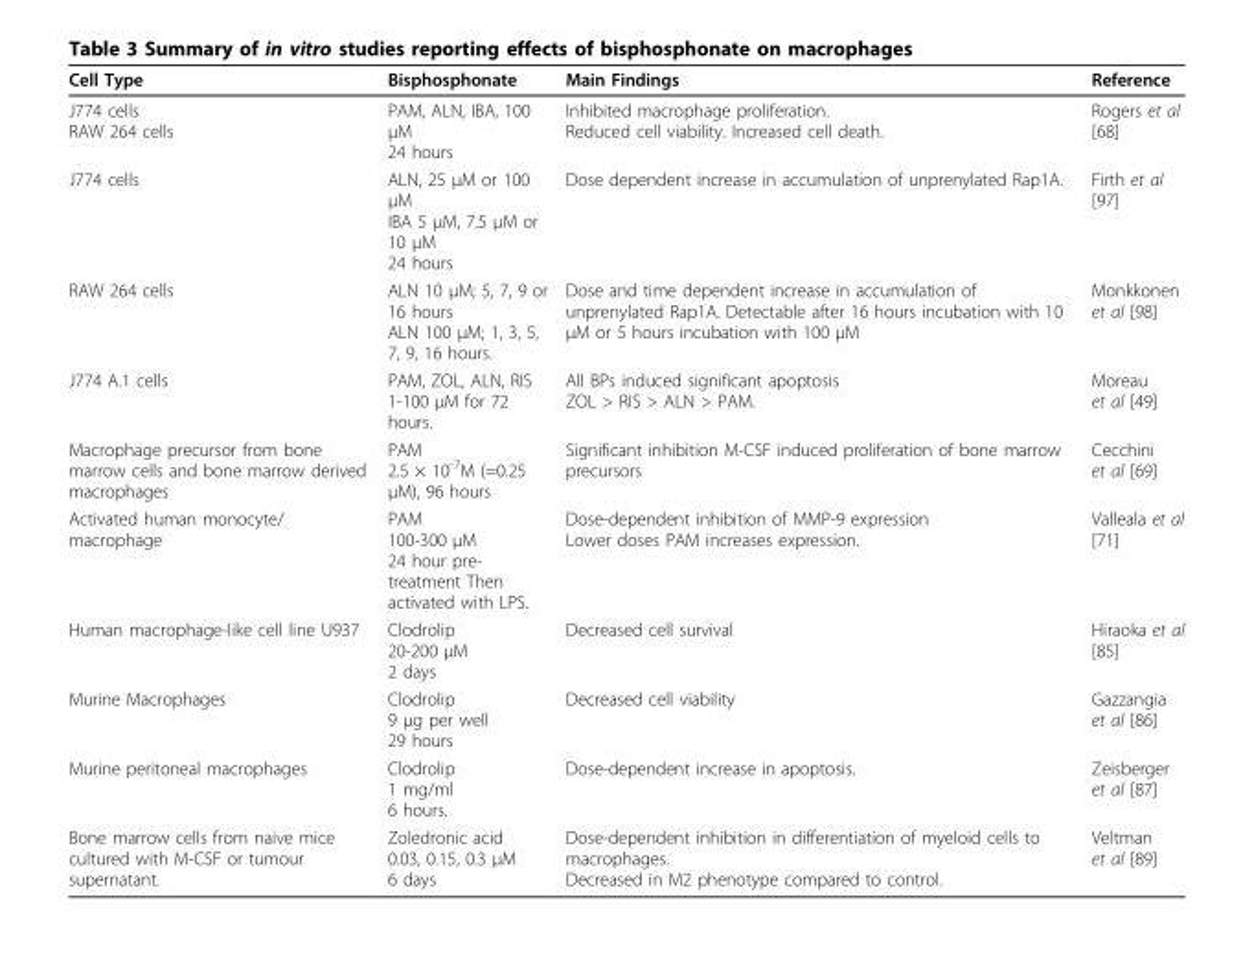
<table><thead><tr><td>Cell Type</td><td>Bisphosphonate</td><td>Main Findings</td><td>Reference</td></tr></thead><tbody><tr><td>J774 cells RAW 264 cells</td><td>PAM, ALN, IBA, 100 μM 24 hours</td><td>Inhibited macrophage proliferation. Reduced cell viability. Increased cell death.</td><td>Rogers et al [68]</td></tr><tr><td>J774 cells</td><td>ALN, 25 μM or 100 μM IBA 5 μM, 7.5 μM or 10 μM 24 hours</td><td>Dose dependent increase in accumulation of unprenylated Rap1A.</td><td>Firth et al [97]</td></tr><tr><td>RAW 264 cells</td><td>ALN 10 μM; 5, 7, 9 or 16 hours ALN 100 μM; 1, 3, 5, 7, 9, 16 hours.</td><td>Dose and time dependent increase in accumulation of unprenylated Rap1A. Detectable after 16 hours incubation with 10 μM or 5 hours incubation with 100 μM</td><td>Monkkonen et al [98]</td></tr><tr><td>J774 A.1 cells</td><td>PAM, ZOL, ALN, RIS 1-100 μM for 72 hours.</td><td>All BPs induced significant apoptosis ZOL &gt; RIS &gt; ALN &gt; PAM.</td><td>Moreau et al [49]</td></tr><tr><td>Macrophage precursor from bone marrow cells and bone marrow derived macrophages</td><td>PAM 2.5 × 10<sup>-7</sup>M (=0.25 μM), 96 hours</td><td>Significant inhibition M-CSF induced proliferation of bone marrow precursors</td><td>Cecchini et al [69]</td></tr><tr><td>Activated human monocyte/ macrophage</td><td>PAM 100-300 μM 24 hour pre- treatment Then activated with LPS.</td><td>Dose-dependent inhibition of MMP-9 expression Lower doses PAM increases expression.</td><td>Valleala et al [71]</td></tr><tr><td>Human macrophage-like cell line U937</td><td>Clodrolip 20-200 μM 2 days</td><td>Decreased cell survival</td><td>Hiraoka et al [85]</td></tr><tr><td>Murine Macrophages</td><td>Clodrolip 9 μg per well 29 hours</td><td>Decreased cell viability</td><td>Gazzangia et al [86]</td></tr><tr><td>Murine peritoneal macrophages</td><td>Clodrolip 1 mg/ml 6 hours.</td><td>Dose-dependent increase in apoptosis.</td><td>Zeisberger et al [87]</td></tr><tr><td>Bone marrow cells from naive mice cultured with M-CSF or tumour supernatant.</td><td>Zoledronic acid 0.03, 0.15, 0.3 μM 6 days</td><td>Dose-dependent inhibition in differentiation of myeloid cells to macrophages. Decreased in M2 phenotype compared to control.</td><td>Veltman et al [89]</td></tr></tbody></table>